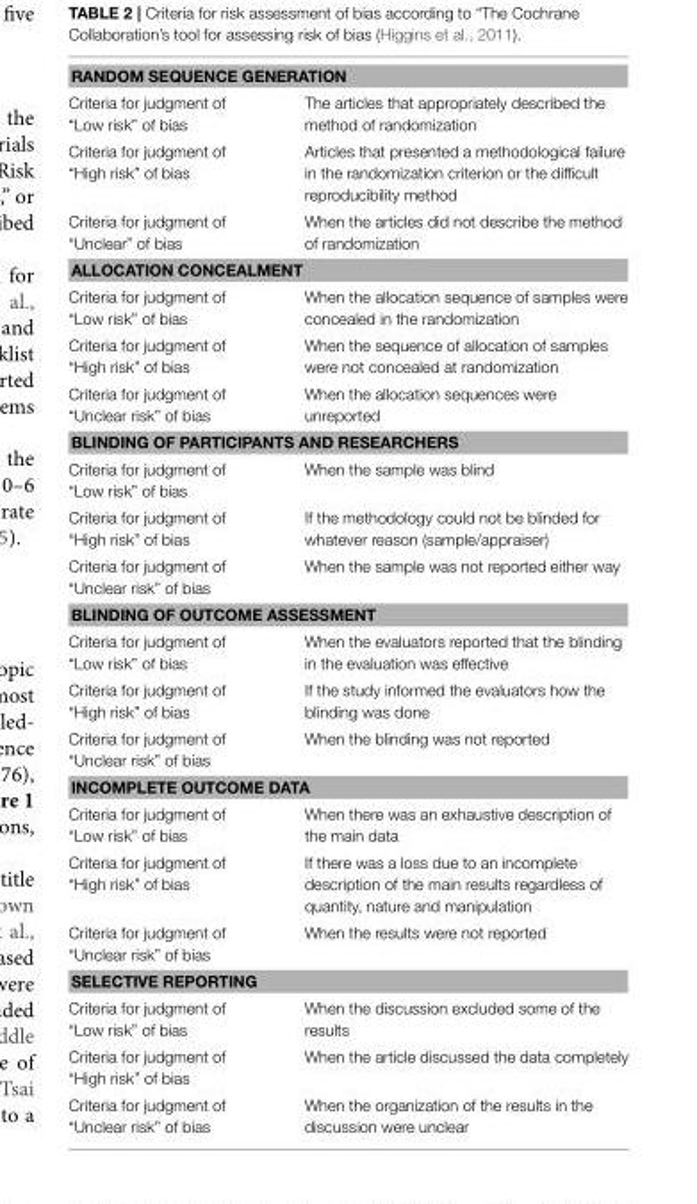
<table><tbody><tr><td colspan="2">RANDOM SEQUENCE GENERATION</td></tr><tr><td>Criteria for judgment of “Low risk” of bias</td><td>The articles that appropriately described the method of randomization</td></tr><tr><td>Criteria for judgment of “High risk” of bias</td><td>Articles that presented a methodological failure in the randomization criterion or the difficult reproducibility method</td></tr><tr><td>Criteria for judgment of “Unclear” of bias</td><td>When the articles did not describe the method of randomization</td></tr><tr><td colspan="2">ALLOCATION CONCEALMENT</td></tr><tr><td>Criteria for judgment of “Low risk” of bias</td><td>When the allocation sequence of samples were concealed in the randomization</td></tr><tr><td>Criteria for judgment of “High risk” of bias</td><td>When the sequence of allocation of samples were not concealed at randomization</td></tr><tr><td>Criteria for judgment of “Unclear risk” of bias</td><td>When the allocation sequences were unreported</td></tr><tr><td colspan="2">BLINDING OF PARTICIPANTS AND RESEARCHERS</td></tr><tr><td>Criteria for judgment of “Low risk” of bias</td><td>When the sample was blind</td></tr><tr><td>Criteria for judgment of “High risk” of bias</td><td>If the methodology could not be blinded for whatever reason (sample/appraiser)</td></tr><tr><td>Criteria for judgment of “Unclear risk” of bias</td><td>When the sample was not reported either way</td></tr><tr><td colspan="2">BLINDING OF OUTCOME ASSESSMENT</td></tr><tr><td>Criteria for judgment of “Low risk” of bias</td><td>When the evaluators reported that the blinding in the evaluation was effective</td></tr><tr><td>Criteria for judgment of “High risk” of bias</td><td>If the study informed the evaluators how the blinding was done</td></tr><tr><td>Criteria for judgment of “Unclear risk” of bias</td><td>When the blinding was not reported</td></tr><tr><td colspan="2">INCOMPLETE OUTCOME DATA</td></tr><tr><td>Criteria for judgment of “Low risk” of bias</td><td>When there was an exhaustive description of the main data</td></tr><tr><td>Criteria for judgment of “High risk” of bias</td><td>If there was a loss due to an incomplete description of the main results regardless of quantity, nature and manipulation</td></tr><tr><td>Criteria for judgment of “Unclear risk” of bias</td><td>When the results were not reported</td></tr><tr><td colspan="2">SELECTIVE REPORTING</td></tr><tr><td>Criteria for judgment of “Low risk” of bias</td><td>When the discussion excluded some of the results</td></tr><tr><td>Criteria for judgment of “High risk” of bias</td><td>When the article discussed the data completely</td></tr><tr><td>Criteria for judgment of “Unclear risk” of bias</td><td>When the organization of the results in the discussion were unclear</td></tr></tbody></table>